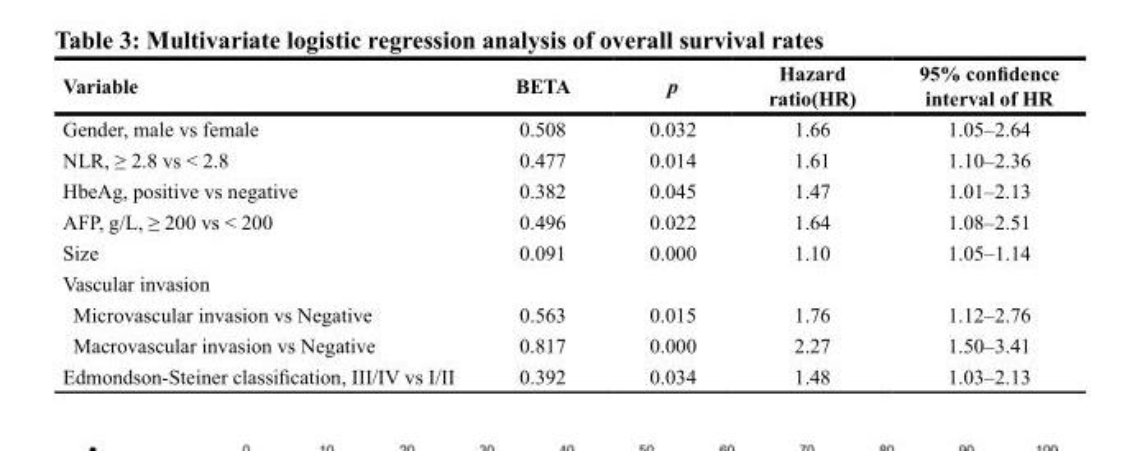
<table><thead><tr><td>Variable</td><td>BETA</td><td>p</td><td>Hazard ratio(HR)</td><td>95% confidence interval of HR</td></tr></thead><tbody><tr><td>Gender, male vs female</td><td>0.508</td><td>0.032</td><td>1.66</td><td>1.05–2.64</td></tr><tr><td>NLR, ≥ 2.8 vs &lt; 2.8</td><td>0.477</td><td>0.014</td><td>1.61</td><td>1.10–2.36</td></tr><tr><td>HbeAg, positive vs negative</td><td>0.382</td><td>0.045</td><td>1.47</td><td>1.01–2.13</td></tr><tr><td>AFP, g/L, ≥ 200 vs &lt; 200</td><td>0.496</td><td>0.022</td><td>1.64</td><td>1.08–2.51</td></tr><tr><td>Size</td><td>0.091</td><td>0.000</td><td>1.10</td><td>1.05–1.14</td></tr><tr><td colspan="5">Vascular invasion</td></tr><tr><td>Microvascular invasion vs Negative</td><td>0.563</td><td>0.015</td><td>1.76</td><td>1.12–2.76</td></tr><tr><td>Macrovascular invasion vs Negative</td><td>0.817</td><td>0.000</td><td>2.27</td><td>1.50–3.41</td></tr><tr><td>Edmondson-Steiner classification, III/IV vs I/II</td><td>0.392</td><td>0.034</td><td>1.48</td><td>1.03–2.13</td></tr></tbody></table>